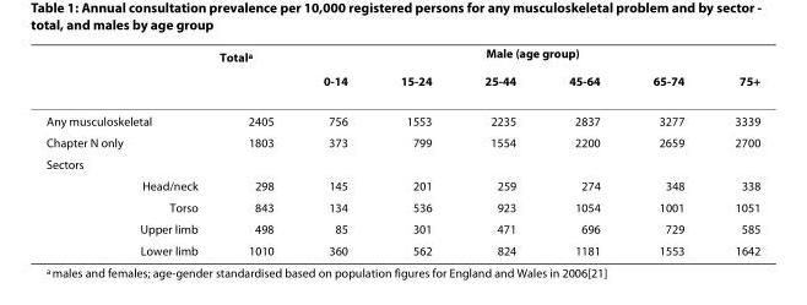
<table><thead><tr><td rowspan="2"></td><td rowspan="2">Total<sup>a</sup></td><td colspan="6">Male (age group)</td></tr><tr><td>0-14</td><td>15-24</td><td>25-44</td><td>45-64</td><td>65-74</td><td>75+</td></tr></thead><tbody><tr><td>Any musculoskeletal</td><td>2405</td><td>756</td><td>1553</td><td>2235</td><td>2837</td><td>3277</td><td>3339</td></tr><tr><td>Chapter N only</td><td>1803</td><td>373</td><td>799</td><td>1554</td><td>2200</td><td>2659</td><td>2700</td></tr><tr><td colspan="8">Sectors</td></tr><tr><td>Head/neck</td><td>298</td><td>145</td><td>201</td><td>259</td><td>274</td><td>348</td><td>338</td></tr><tr><td>Torso</td><td>843</td><td>134</td><td>536</td><td>923</td><td>1054</td><td>1001</td><td>1051</td></tr><tr><td>Upper limb</td><td>498</td><td>85</td><td>301</td><td>471</td><td>696</td><td>729</td><td>585</td></tr><tr><td>Lower limb</td><td>1010</td><td>360</td><td>562</td><td>824</td><td>1181</td><td>1553</td><td>1642</td></tr></tbody></table>